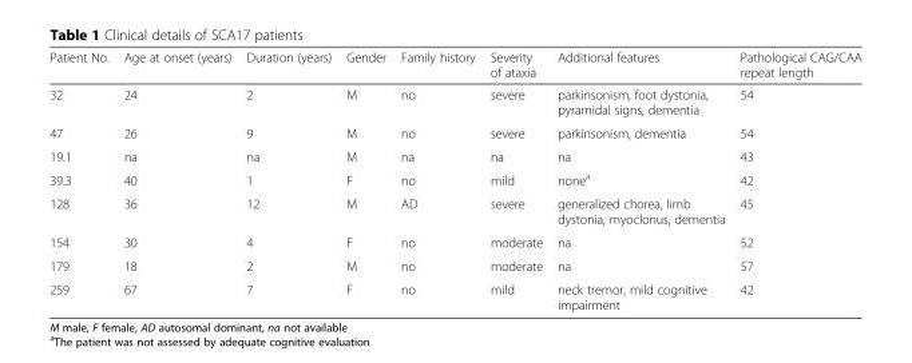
<table><thead><tr><td>Patient No.</td><td>Age at onset (years)</td><td>Duration (years)</td><td>Gender</td><td>Family history</td><td>Severity of ataxia</td><td>Additional features</td><td>Pathological CAG/CAA repeat length</td></tr></thead><tbody><tr><td>32</td><td>24</td><td>2</td><td>M</td><td>no</td><td>severe</td><td>parkinsonism, foot dystonia, pyramidal signs, dementia</td><td>54</td></tr><tr><td>47</td><td>26</td><td>9</td><td>M</td><td>no</td><td>severe</td><td>parkinsonism, dementia</td><td>54</td></tr><tr><td>19.1</td><td>na</td><td>na</td><td>M</td><td>na</td><td>na</td><td>na</td><td>43</td></tr><tr><td>39.3</td><td>40</td><td>1</td><td>F</td><td>no</td><td>mild</td><td>none<sup>a</sup></td><td>42</td></tr><tr><td>128</td><td>36</td><td>12</td><td>M</td><td>AD</td><td>severe</td><td>generalized chorea, limb dystonia, myoclonus, dementia</td><td>45</td></tr><tr><td>154</td><td>30</td><td>4</td><td>F</td><td>no</td><td>moderate</td><td>na</td><td>52</td></tr><tr><td>179</td><td>18</td><td>2</td><td>M</td><td>no</td><td>moderate</td><td>na</td><td>57</td></tr><tr><td>259</td><td>67</td><td>7</td><td>F</td><td>no</td><td>mild</td><td>neck tremor, mild cognitive impairment</td><td>42</td></tr></tbody></table>